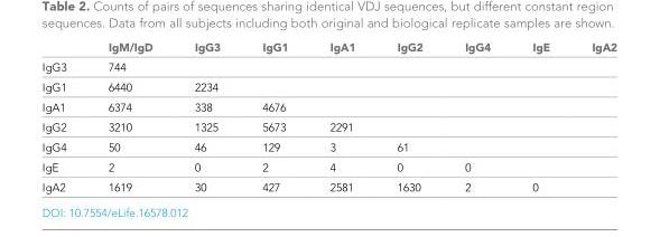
<table><thead><tr><td></td><td>IgM/IgD</td><td>IgG3</td><td>IgG1</td><td>IgA1</td><td>IgG2</td><td>IgG4</td><td>IgE</td><td>IgA2</td></tr></thead><tbody><tr><td>IgG3</td><td>744</td><td></td><td></td><td></td><td></td><td></td><td></td><td></td></tr><tr><td>IgG1</td><td>6440</td><td>2234</td><td></td><td></td><td></td><td></td><td></td><td></td></tr><tr><td>IgA1</td><td>6374</td><td>338</td><td>4676</td><td></td><td></td><td></td><td></td><td></td></tr><tr><td>IgG2</td><td>3210</td><td>1325</td><td>5673</td><td>2291</td><td></td><td></td><td></td><td></td></tr><tr><td>IgG4</td><td>50</td><td>46</td><td>129</td><td>3</td><td>61</td><td></td><td></td><td></td></tr><tr><td>IgE</td><td>2</td><td>0</td><td>2</td><td>4</td><td>0</td><td>0</td><td></td><td></td></tr><tr><td>IgA2</td><td>1619</td><td>30</td><td>427</td><td>2581</td><td>1630</td><td>2</td><td>0</td><td></td></tr></tbody></table>